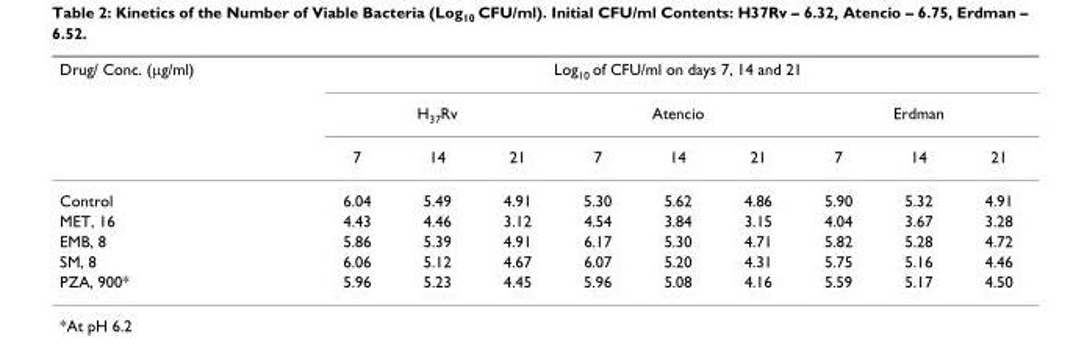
<table><thead><tr><td rowspan="3">Drug/ Conc. (µg/ml)</td><td colspan="9">Log<sub>10</sub> of CFU/ml on days 7, 14 and 21</td></tr><tr><td colspan="3">H<sub>37</sub>Rv</td><td colspan="3">Atencio</td><td colspan="3">Erdman</td></tr><tr><td>7</td><td>14</td><td>21</td><td>7</td><td>14</td><td>21</td><td>7</td><td>14</td><td>21</td></tr></thead><tbody><tr><td>Control</td><td>6.04</td><td>5.49</td><td>4.91</td><td>5.30</td><td>5.62</td><td>4.86</td><td>5.90</td><td>5.32</td><td>4.91</td></tr><tr><td>MET, 16</td><td>4.43</td><td>4.46</td><td>3.12</td><td>4.54</td><td>3.84</td><td>3.15</td><td>4.04</td><td>3.67</td><td>3.28</td></tr><tr><td>EMB, 8</td><td>5.86</td><td>5.39</td><td>4.91</td><td>6.17</td><td>5.30</td><td>4.71</td><td>5.82</td><td>5.28</td><td>4.72</td></tr><tr><td>SM, 8</td><td>6.06</td><td>5.12</td><td>4.67</td><td>6.07</td><td>5.20</td><td>4.31</td><td>5.75</td><td>5.16</td><td>4.46</td></tr><tr><td>PZA, 900*</td><td>5.96</td><td>5.23</td><td>4.45</td><td>5.96</td><td>5.08</td><td>4.16</td><td>5.59</td><td>5.17</td><td>4.50</td></tr></tbody></table>